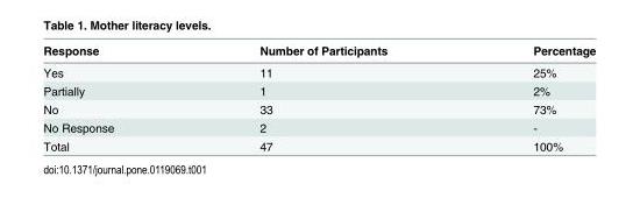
<table><thead><tr><td>Response</td><td>Number of Participants</td><td>Percentage</td></tr></thead><tbody><tr><td>Yes</td><td>11</td><td>25%</td></tr><tr><td>Partially</td><td>1</td><td>2%</td></tr><tr><td>No</td><td>33</td><td>73%</td></tr><tr><td>No Response</td><td>2</td><td>-</td></tr><tr><td>Total</td><td>47</td><td>100%</td></tr></tbody></table>